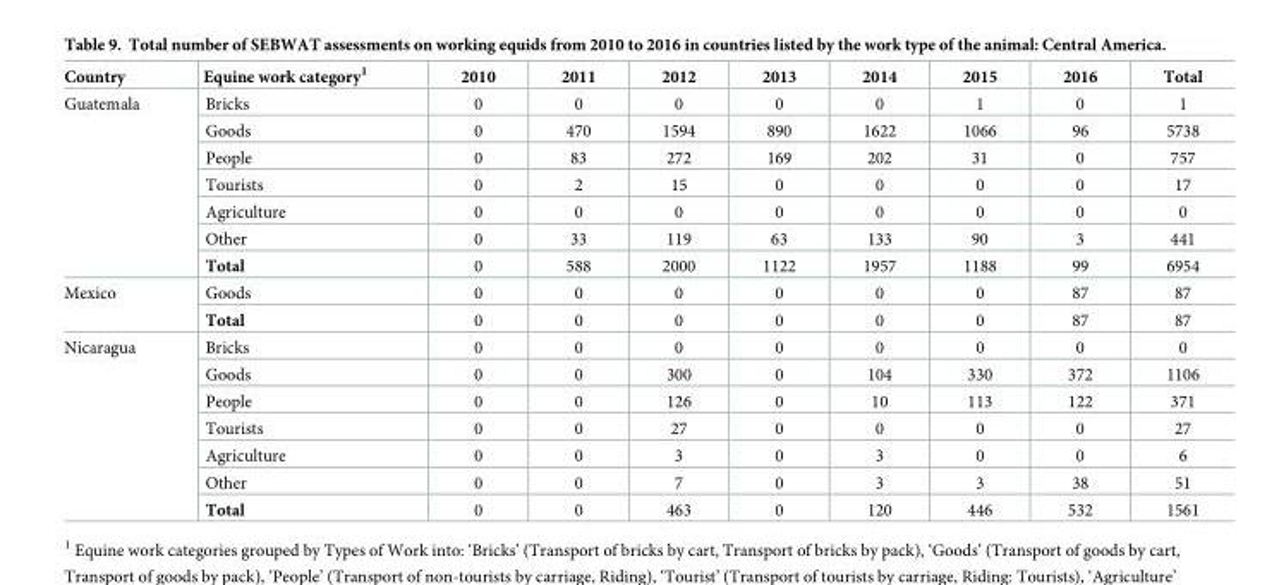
<table><thead><tr><td>Country</td><td>Equine work category<sup>1</sup></td><td>2010</td><td>2011</td><td>2012</td><td>2013</td><td>2014</td><td>2015</td><td>2016</td><td>Total</td></tr></thead><tbody><tr><td rowspan="7">Guatemala</td><td>Bricks</td><td>0</td><td>0</td><td>0</td><td>0</td><td>0</td><td>1</td><td>0</td><td>1</td></tr><tr><td>Goods</td><td>0</td><td>470</td><td>1594</td><td>890</td><td>1622</td><td>1066</td><td>96</td><td>5738</td></tr><tr><td>People</td><td>0</td><td>83</td><td>272</td><td>169</td><td>202</td><td>31</td><td>0</td><td>757</td></tr><tr><td>Tourists</td><td>0</td><td>2</td><td>15</td><td>0</td><td>0</td><td>0</td><td>0</td><td>17</td></tr><tr><td>Agriculture</td><td>0</td><td>0</td><td>0</td><td>0</td><td>0</td><td>0</td><td>0</td><td>0</td></tr><tr><td>Other</td><td>0</td><td>33</td><td>119</td><td>63</td><td>133</td><td>90</td><td>3</td><td>441</td></tr><tr><td>Total</td><td>0</td><td>588</td><td>2000</td><td>1122</td><td>1957</td><td>1188</td><td>99</td><td>6954</td></tr><tr><td rowspan="2">Mexico</td><td>Goods</td><td>0</td><td>0</td><td>0</td><td>0</td><td>0</td><td>0</td><td>87</td><td>87</td></tr><tr><td>Total</td><td>0</td><td>0</td><td>0</td><td>0</td><td>0</td><td>0</td><td>87</td><td>87</td></tr><tr><td rowspan="7">Nicaragua</td><td>Bricks</td><td>0</td><td>0</td><td>0</td><td>0</td><td>0</td><td>0</td><td>0</td><td>0</td></tr><tr><td>Goods</td><td>0</td><td>0</td><td>300</td><td>0</td><td>104</td><td>330</td><td>372</td><td>1106</td></tr><tr><td>People</td><td>0</td><td>0</td><td>126</td><td>0</td><td>10</td><td>113</td><td>122</td><td>371</td></tr><tr><td>Tourists</td><td>0</td><td>0</td><td>27</td><td>0</td><td>0</td><td>0</td><td>0</td><td>27</td></tr><tr><td>Agriculture</td><td>0</td><td>0</td><td>3</td><td>0</td><td>3</td><td>0</td><td>0</td><td>6</td></tr><tr><td>Other</td><td>0</td><td>0</td><td>7</td><td>0</td><td>3</td><td>3</td><td>38</td><td>51</td></tr><tr><td>Total</td><td>0</td><td>0</td><td>463</td><td>0</td><td>120</td><td>446</td><td>532</td><td>1561</td></tr></tbody></table>